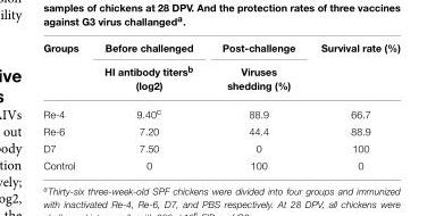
<table><thead><tr><td rowspan="2">Groups</td><td rowspan="2">Before challenged HI antibody titers<sup>b</sup> (log2)</td><td rowspan="2">Post-challenge Viruses shedding (%)</td><td rowspan="2">Survival rate (%)</td></tr><tr></tr></thead><tbody><tr><td>Re-4</td><td>9.40<sup>c</sup></td><td>88.9</td><td>66.7</td></tr><tr><td>Re-6</td><td>7.20</td><td>44.4</td><td>88.9</td></tr><tr><td>D7</td><td>7.50</td><td>0</td><td>100</td></tr><tr><td>Control</td><td>0</td><td>100</td><td>0</td></tr></tbody></table>